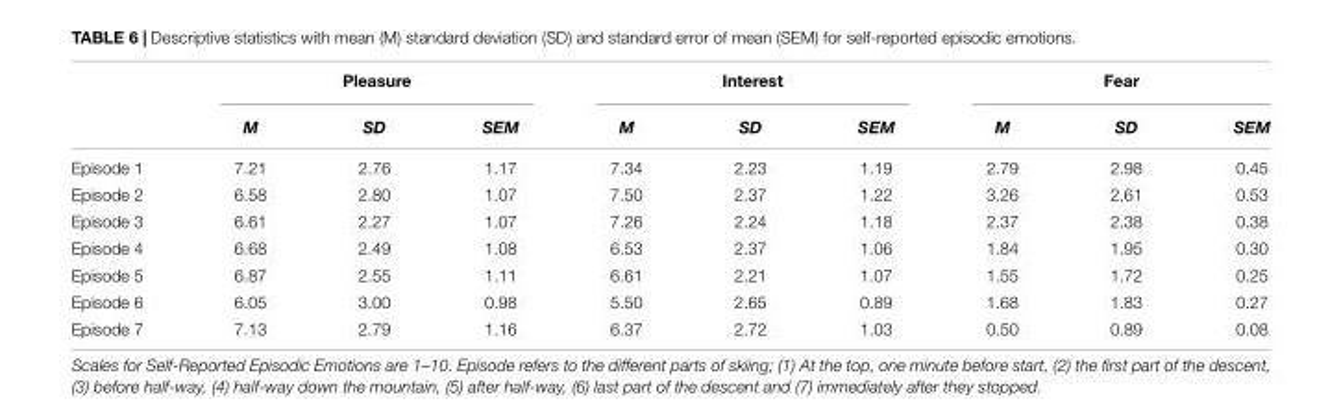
<table><thead><tr><td rowspan="2"></td><td colspan="3">Pleasure</td><td colspan="3">Interest</td><td colspan="3">Fear</td></tr><tr><td>M</td><td>SD</td><td>SEM</td><td>M</td><td>SD</td><td>SEM</td><td>M</td><td>SD</td><td>SEM</td></tr></thead><tbody><tr><td>Episode 1</td><td>7.21</td><td>2.76</td><td>1.17</td><td>7.34</td><td>2.23</td><td>1.19</td><td>2.79</td><td>2.98</td><td>0.45</td></tr><tr><td>Episode 2</td><td>6.58</td><td>2.80</td><td>1.07</td><td>7.50</td><td>2.37</td><td>1.22</td><td>3.26</td><td>2.61</td><td>0.53</td></tr><tr><td>Episode 3</td><td>6.61</td><td>2.27</td><td>1.07</td><td>7.26</td><td>2.24</td><td>1.18</td><td>2.37</td><td>2.38</td><td>0.38</td></tr><tr><td>Episode 4</td><td>6.68</td><td>2.49</td><td>1.08</td><td>6.53</td><td>2.37</td><td>1.06</td><td>1.84</td><td>1.95</td><td>0.30</td></tr><tr><td>Episode 5</td><td>6.87</td><td>2.55</td><td>1.11</td><td>6.61</td><td>2.21</td><td>1.07</td><td>1.55</td><td>1.72</td><td>0.25</td></tr><tr><td>Episode 6</td><td>6.05</td><td>3.00</td><td>0.98</td><td>5.50</td><td>2.65</td><td>0.89</td><td>1.68</td><td>1.83</td><td>0.27</td></tr><tr><td>Episode 7</td><td>7.13</td><td>2.79</td><td>1.16</td><td>6.37</td><td>2.72</td><td>1.03</td><td>0.50</td><td>0.89</td><td>0.08</td></tr></tbody></table>